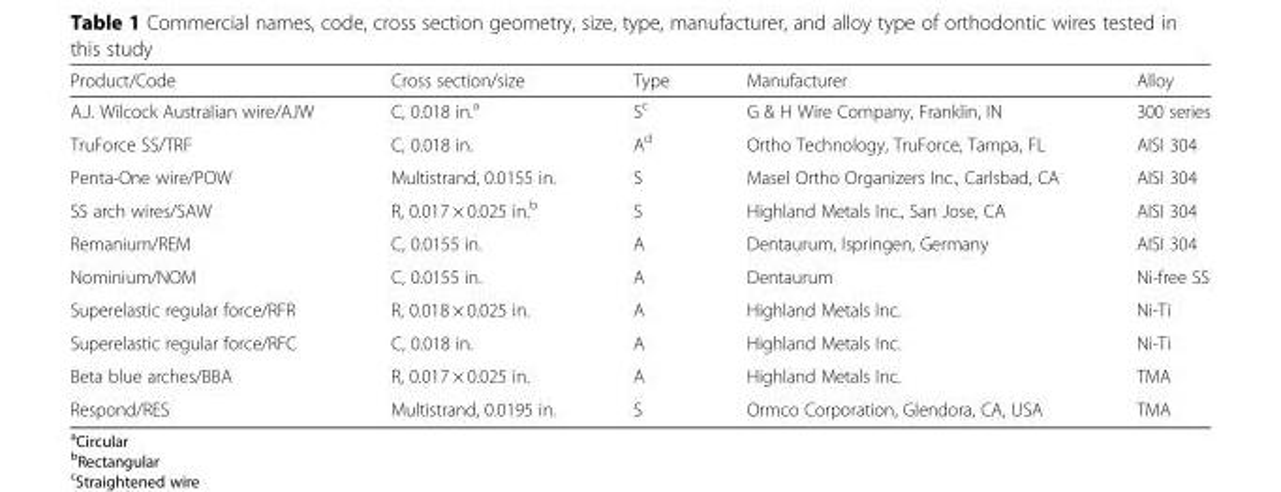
<table><thead><tr><td>Product/Code</td><td>Cross section/size</td><td>Type</td><td>Manufacturer</td><td>Alloy</td></tr></thead><tbody><tr><td>A.J. Wilcock Australian wire/AJW</td><td>C, 0.018 in.<sup>a</sup></td><td>S<sup>c</sup></td><td>G &amp; H Wire Company, Franklin, IN</td><td>300 series</td></tr><tr><td>TruForce SS/TRF</td><td>C, 0.018 in.</td><td>A<sup>d</sup></td><td>Ortho Technology, TruForce, Tampa, FL</td><td>AISI 304</td></tr><tr><td>Penta-One wire/POW</td><td>Multistrand, 0.0155 in.</td><td>S</td><td>Masel Ortho Organizers Inc., Carlsbad, CA</td><td>AISI 304</td></tr><tr><td>SS arch wires/SAW</td><td>R, 0.017 × 0.025 in.<sup>b</sup></td><td>S</td><td>Highland Metals Inc., San Jose, CA</td><td>AISI 304</td></tr><tr><td>Remanium/REM</td><td>C, 0.0155 in.</td><td>A</td><td>Dentaurum, Ispringen, Germany</td><td>AISI 304</td></tr><tr><td>Nominium/NOM</td><td>C, 0.0155 in.</td><td>A</td><td>Dentaurum</td><td>Ni-free SS</td></tr><tr><td>Superelastic regular force/RFR</td><td>R, 0.018 × 0.025 in.</td><td>A</td><td>Highland Metals Inc.</td><td>Ni-Ti</td></tr><tr><td>Superelastic regular force/RFC</td><td>C, 0.018 in.</td><td>A</td><td>Highland Metals Inc.</td><td>Ni-Ti</td></tr><tr><td>Beta blue arches/BBA</td><td>R, 0.017 × 0.025 in.</td><td>A</td><td>Highland Metals Inc.</td><td>TMA</td></tr><tr><td>Respond/RES</td><td>Multistrand, 0.0195 in.</td><td>S</td><td>Ormco Corporation, Glendora, CA, USA</td><td>TMA</td></tr></tbody></table>